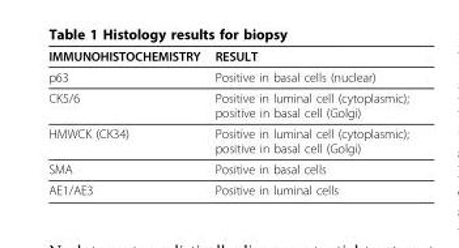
<table><thead><tr><td>IMMUNOHISTOCHEMISTRY</td><td>RESULT</td></tr></thead><tbody><tr><td>p63</td><td>Positive in basal cells (nuclear)</td></tr><tr><td>CK5/6</td><td>Positive in luminal cell (cytoplasmic); positive in basal cell (Golgi)</td></tr><tr><td>HMWCK (CK34)</td><td>Positive in luminal cell (cytoplasmic); positive in basal cell (Golgi)</td></tr><tr><td>SMA</td><td>Positive in basal cells</td></tr><tr><td>AE1/AE3</td><td>Positive in luminal cells</td></tr></tbody></table>